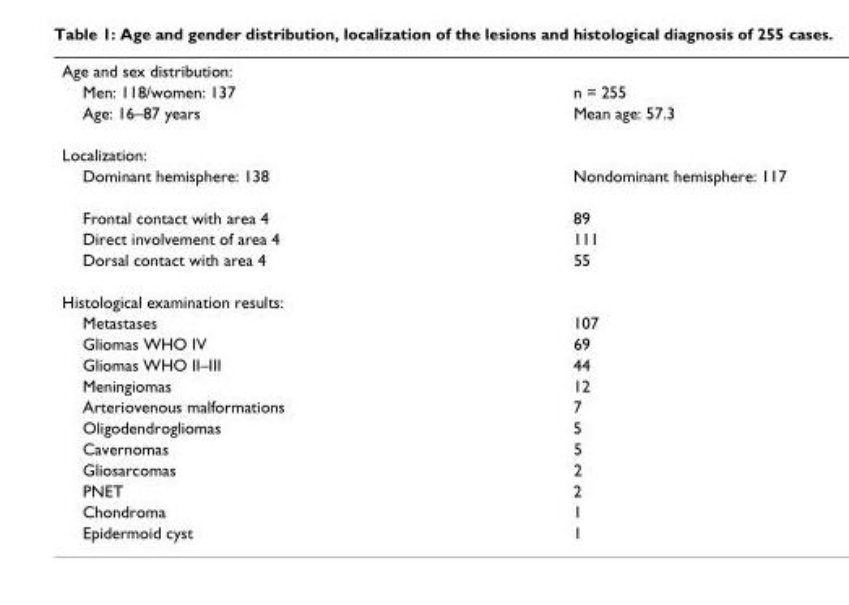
<table><tbody><tr><td colspan="2">Age and sex distribution:</td></tr><tr><td>Men: 118/women: 137</td><td>n = 255</td></tr><tr><td>Age: 16–87 years</td><td>Mean age: 57.3</td></tr><tr><td colspan="2">Localization:</td></tr><tr><td>Dominant hemisphere: 138</td><td>Nondominant hemisphere: 117</td></tr><tr><td>Frontal contact with area 4</td><td>89</td></tr><tr><td>Direct involvement of area 4</td><td>111</td></tr><tr><td>Dorsal contact with area 4</td><td>55</td></tr><tr><td colspan="2">Histological examination results:</td></tr><tr><td>Metastases</td><td>107</td></tr><tr><td>Gliomas WHO IV</td><td>69</td></tr><tr><td>Gliomas WHO II–III</td><td>44</td></tr><tr><td>Meningiomas</td><td>12</td></tr><tr><td>Arteriovenous malformations</td><td>7</td></tr><tr><td>Oligodendrogliomas</td><td>5</td></tr><tr><td>Cavernomas</td><td>5</td></tr><tr><td>Gliosarcomas</td><td>2</td></tr><tr><td>PNET</td><td>2</td></tr><tr><td>Chondroma</td><td>1</td></tr><tr><td>Epidermoid cyst</td><td>1</td></tr></tbody></table>